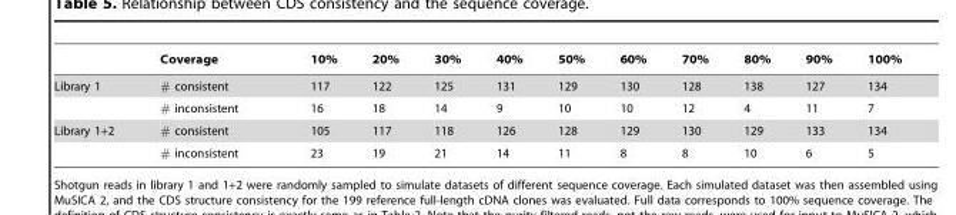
<table><thead><tr><td></td><td>Coverage</td><td>10%</td><td>20%</td><td>30%</td><td>40%</td><td>50%</td><td>60%</td><td>70%</td><td>80%</td><td>90%</td><td>100%</td></tr></thead><tbody><tr><td rowspan="2">Library 1</td><td># consistent</td><td>117</td><td>122</td><td>125</td><td>131</td><td>129</td><td>130</td><td>128</td><td>138</td><td>127</td><td>134</td></tr><tr><td># inconsistent</td><td>16</td><td>18</td><td>14</td><td>9</td><td>10</td><td>10</td><td>12</td><td>4</td><td>11</td><td>7</td></tr><tr><td rowspan="2">Library 1+2</td><td># consistent</td><td>105</td><td>117</td><td>118</td><td>126</td><td>128</td><td>129</td><td>130</td><td>129</td><td>133</td><td>134</td></tr><tr><td># inconsistent</td><td>23</td><td>19</td><td>21</td><td>14</td><td>11</td><td>8</td><td>8</td><td>10</td><td>6</td><td>5</td></tr></tbody></table>